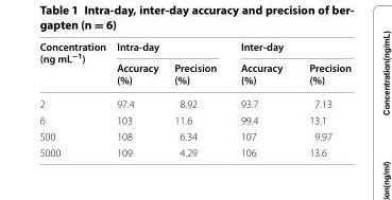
<table><thead><tr><td rowspan="2">Concentration (ng mL<sup>−1</sup>)</td><td colspan="2">Intra-day</td><td colspan="2">Inter-day</td></tr><tr><td>Accuracy (%)</td><td>Precision (%)</td><td>Accuracy (%)</td><td>Precision (%)</td></tr></thead><tbody><tr><td>2</td><td>97.4</td><td>8.92</td><td>93.7</td><td>7.13</td></tr><tr><td>6</td><td>103</td><td>11.6</td><td>99.4</td><td>13.1</td></tr><tr><td>500</td><td>108</td><td>6.34</td><td>107</td><td>9.97</td></tr><tr><td>5000</td><td>109</td><td>4.29</td><td>106</td><td>13.6</td></tr></tbody></table>